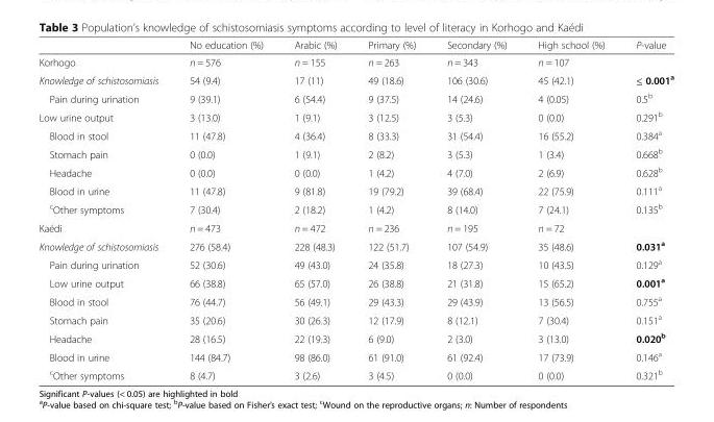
<table><thead><tr><td></td><td>No education (%)</td><td>Arabic (%)</td><td>Primary (%)</td><td>Secondary (%)</td><td>High school (%)</td><td>P-value</td></tr></thead><tbody><tr><td>Korhogo</td><td>n = 576</td><td>n = 155</td><td>n = 263</td><td>n = 343</td><td>n = 107</td><td></td></tr><tr><td>Knowledge of schistosomiasis</td><td>54 (9.4)</td><td>17 (11)</td><td>49 (18.6)</td><td>106 (30.6)</td><td>45 (42.1)</td><td>≤ 0.001<sup>a</sup></td></tr><tr><td>Pain during urination</td><td>9 (39.1)</td><td>6 (54.4)</td><td>9 (37.5)</td><td>14 (24.6)</td><td>4 (0.05)</td><td>0.5<sup>b</sup></td></tr><tr><td>Low urine output</td><td>3 (13.0)</td><td>1 (9.1)</td><td>3 (12.5)</td><td>3 (5.3)</td><td>0 (0.0)</td><td>0.291<sup>b</sup></td></tr><tr><td>Blood in stool</td><td>11 (47.8)</td><td>4 (36.4)</td><td>8 (33.3)</td><td>31 (54.4)</td><td>16 (55.2)</td><td>0.384<sup>a</sup></td></tr><tr><td>Stomach pain</td><td>0 (0.0)</td><td>1 (9.1)</td><td>2 (8.2)</td><td>3 (5.3)</td><td>1 (3.4)</td><td>0.668<sup>b</sup></td></tr><tr><td>Headache</td><td>0 (0.0)</td><td>0 (0.0)</td><td>1 (4.2)</td><td>4 (7.0)</td><td>2 (6.9)</td><td>0.628<sup>b</sup></td></tr><tr><td>Blood in urine</td><td>11 (47.8)</td><td>9 (81.8)</td><td>19 (79.2)</td><td>39 (68.4)</td><td>22 (75.9)</td><td>0.111<sup>a</sup></td></tr><tr><td><sup>c</sup>Other symptoms</td><td>7 (30.4)</td><td>2 (18.2)</td><td>1 (4.2)</td><td>8 (14.0)</td><td>7 (24.1)</td><td>0.135<sup>b</sup></td></tr><tr><td>Kaédi</td><td>n = 473</td><td>n = 472</td><td>n = 236</td><td>n = 195</td><td>n = 72</td><td></td></tr><tr><td>Knowledge of schistosomiasis</td><td>276 (58.4)</td><td>228 (48.3)</td><td>122 (51.7)</td><td>107 (54.9)</td><td>35 (48.6)</td><td>0.031<sup>a</sup></td></tr><tr><td>Pain during urination</td><td>52 (30.6)</td><td>49 (43.0)</td><td>24 (35.8)</td><td>18 (27.3)</td><td>10 (43.5)</td><td>0.129<sup>a</sup></td></tr><tr><td>Low urine output</td><td>66 (38.8)</td><td>65 (57.0)</td><td>26 (38.8)</td><td>21 (31.8)</td><td>15 (65.2)</td><td>0.001<sup>a</sup></td></tr><tr><td>Blood in stool</td><td>76 (44.7)</td><td>56 (49.1)</td><td>29 (43.3)</td><td>29 (43.9)</td><td>13 (56.5)</td><td>0.755<sup>a</sup></td></tr><tr><td>Stomach pain</td><td>35 (20.6)</td><td>30 (26.3)</td><td>12 (17.9)</td><td>8 (12.1)</td><td>7 (30.4)</td><td>0.151<sup>a</sup></td></tr><tr><td>Headache</td><td>28 (16.5)</td><td>22 (19.3)</td><td>6 (9.0)</td><td>2 (3.0)</td><td>3 (13.0)</td><td>0.020<sup>b</sup></td></tr><tr><td>Blood in urine</td><td>144 (84.7)</td><td>98 (86.0)</td><td>61 (91.0)</td><td>61 (92.4)</td><td>17 (73.9)</td><td>0.146<sup>a</sup></td></tr><tr><td><sup>c</sup>Other symptoms</td><td>8 (4.7)</td><td>3 (2.6)</td><td>3 (4.5)</td><td>0 (0.0)</td><td>0 (0.0)</td><td>0.321<sup>b</sup></td></tr></tbody></table>